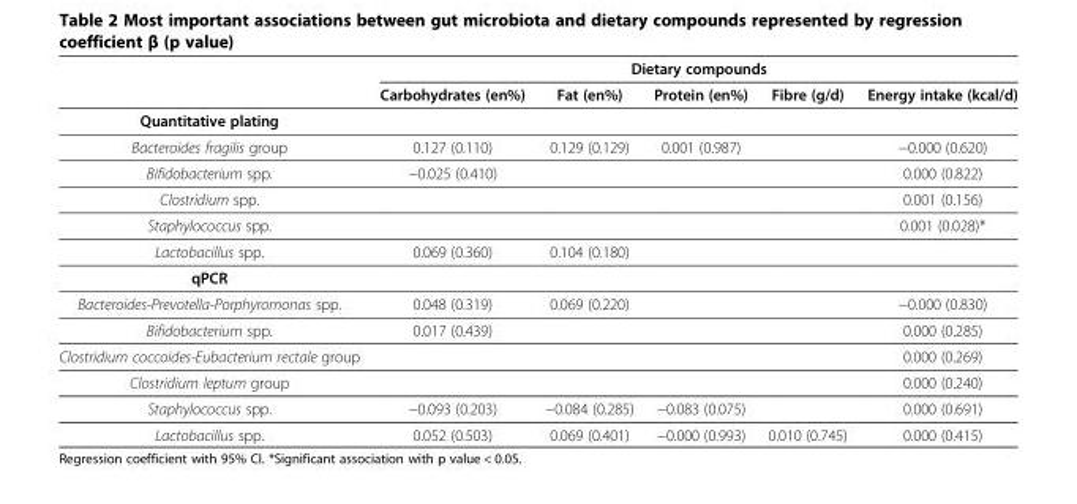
<table><thead><tr><td rowspan="2"></td><td colspan="5">Dietary compounds</td></tr><tr><td>Carbohydrates (en%)</td><td>Fat (en%)</td><td>Protein (en%)</td><td>Fibre (g/d)</td><td>Energy intake (kcal/d)</td></tr></thead><tbody><tr><td colspan="6">Quantitative plating</td></tr><tr><td>Bacteroides fragilis group</td><td>0.127 (0.110)</td><td>0.129 (0.129)</td><td>0.001 (0.987)</td><td></td><td>−0.000 (0.620)</td></tr><tr><td>Bifidobacterium spp.</td><td>−0.025 (0.410)</td><td></td><td></td><td></td><td>0.000 (0.822)</td></tr><tr><td>Clostridium spp.</td><td></td><td></td><td></td><td></td><td>0.001 (0.156)</td></tr><tr><td>Staphylococcus spp.</td><td></td><td></td><td></td><td></td><td>0.001 (0.028)*</td></tr><tr><td>Lactobacillus spp.</td><td>0.069 (0.360)</td><td>0.104 (0.180)</td><td></td><td></td><td></td></tr><tr><td colspan="6">qPCR</td></tr><tr><td>Bacteroides-Prevotella-Porphyromonas spp.</td><td>0.048 (0.319)</td><td>0.069 (0.220)</td><td></td><td></td><td>−0.000 (0.830)</td></tr><tr><td>Bifidobacterium spp.</td><td>0.017 (0.439)</td><td></td><td></td><td></td><td>0.000 (0.285)</td></tr><tr><td>Clostridium coccoides-Eubacterium rectale group</td><td></td><td></td><td></td><td></td><td>0.000 (0.269)</td></tr><tr><td>Clostridium leptum group</td><td></td><td></td><td></td><td></td><td>0.000 (0.240)</td></tr><tr><td>Staphylococcus spp.</td><td>−0.093 (0.203)</td><td>−0.084 (0.285)</td><td>−0.083 (0.075)</td><td></td><td>0.000 (0.691)</td></tr><tr><td>Lactobacillus spp.</td><td>0.052 (0.503)</td><td>0.069 (0.401)</td><td>−0.000 (0.993)</td><td>0.010 (0.745)</td><td>0.000 (0.415)</td></tr></tbody></table>